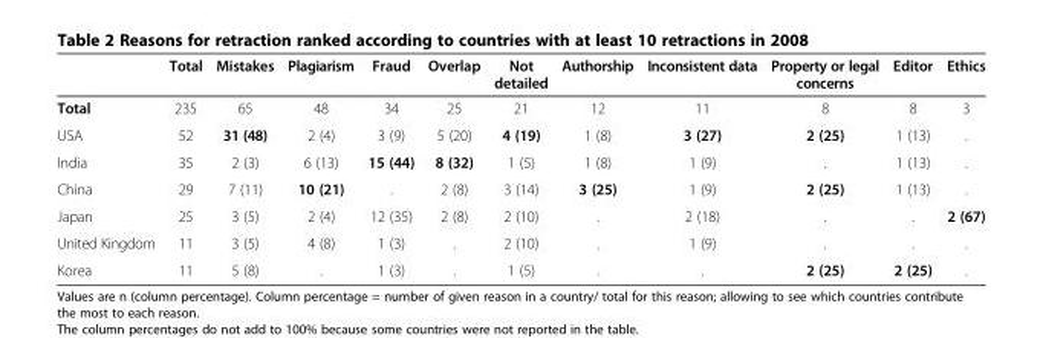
<table><thead><tr><td></td><td>Total</td><td>Mistakes</td><td>Plagiarism</td><td>Fraud</td><td>Overlap</td><td>Not detailed</td><td>Authorship</td><td>Inconsistent data</td><td>Property or legal concerns</td><td>Editor</td><td>Ethics</td></tr></thead><tbody><tr><td>Total</td><td>235</td><td>65</td><td>48</td><td>34</td><td>25</td><td>21</td><td>12</td><td>11</td><td>8</td><td>8</td><td>3</td></tr><tr><td>USA</td><td>52</td><td>31 (48)</td><td>2 (4)</td><td>3 (9)</td><td>5 (20)</td><td>4 (19)</td><td>1 (8)</td><td>3 (27)</td><td>2 (25)</td><td>1 (13)</td><td>.</td></tr><tr><td>India</td><td>35</td><td>2 (3)</td><td>6 (13)</td><td>15 (44)</td><td>8 (32)</td><td>1 (5)</td><td>1 (8)</td><td>1 (9)</td><td>.</td><td>1 (13)</td><td>.</td></tr><tr><td>China</td><td>29</td><td>7 (11)</td><td>10 (21)</td><td>.</td><td>2 (8)</td><td>3 (14)</td><td>3 (25)</td><td>1 (9)</td><td>2 (25)</td><td>1 (13)</td><td>.</td></tr><tr><td>Japan</td><td>25</td><td>3 (5)</td><td>2 (4)</td><td>12 (35)</td><td>2 (8)</td><td>2 (10)</td><td>.</td><td>2 (18)</td><td>.</td><td>.</td><td>2 (67)</td></tr><tr><td>United Kingdom</td><td>11</td><td>3 (5)</td><td>4 (8)</td><td>1 (3)</td><td>.</td><td>2 (10)</td><td>.</td><td>1 (9)</td><td>.</td><td>.</td><td>.</td></tr><tr><td>Korea</td><td>11</td><td>5 (8)</td><td>.</td><td>1 (3)</td><td>.</td><td>1 (5)</td><td>.</td><td>.</td><td>2 (25)</td><td>2 (25)</td><td>.</td></tr></tbody></table>